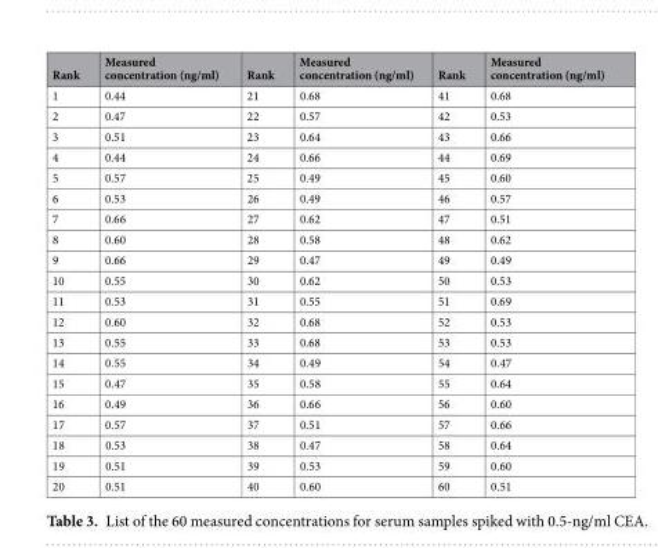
<table><thead><tr><td>Rank</td><td>Measured concentration (ng/ml)</td><td>Rank</td><td>Measured concentration (ng/ml)</td><td>Rank</td><td>Measured concentration (ng/ml)</td></tr></thead><tbody><tr><td>1</td><td>0.44</td><td>21</td><td>0.68</td><td>41</td><td>0.68</td></tr><tr><td>2</td><td>0.47</td><td>22</td><td>0.57</td><td>42</td><td>0.53</td></tr><tr><td>3</td><td>0.51</td><td>23</td><td>0.64</td><td>43</td><td>0.66</td></tr><tr><td>4</td><td>0.44</td><td>24</td><td>0.66</td><td>44</td><td>0.69</td></tr><tr><td>5</td><td>0.57</td><td>25</td><td>0.49</td><td>45</td><td>0.60</td></tr><tr><td>6</td><td>0.53</td><td>26</td><td>0.49</td><td>46</td><td>0.57</td></tr><tr><td>7</td><td>0.66</td><td>27</td><td>0.62</td><td>47</td><td>0.51</td></tr><tr><td>8</td><td>0.60</td><td>28</td><td>0.58</td><td>48</td><td>0.62</td></tr><tr><td>9</td><td>0.66</td><td>29</td><td>0.47</td><td>49</td><td>0.49</td></tr><tr><td>10</td><td>0.55</td><td>30</td><td>0.62</td><td>50</td><td>0.53</td></tr><tr><td>11</td><td>0.53</td><td>31</td><td>0.55</td><td>51</td><td>0.69</td></tr><tr><td>12</td><td>0.60</td><td>32</td><td>0.68</td><td>52</td><td>0.53</td></tr><tr><td>13</td><td>0.55</td><td>33</td><td>0.68</td><td>53</td><td>0.53</td></tr><tr><td>14</td><td>0.55</td><td>34</td><td>0.49</td><td>54</td><td>0.47</td></tr><tr><td>15</td><td>0.47</td><td>35</td><td>0.58</td><td>55</td><td>0.64</td></tr><tr><td>16</td><td>0.49</td><td>36</td><td>0.66</td><td>56</td><td>0.60</td></tr><tr><td>17</td><td>0.57</td><td>37</td><td>0.51</td><td>57</td><td>0.66</td></tr><tr><td>18</td><td>0.53</td><td>38</td><td>0.47</td><td>58</td><td>0.64</td></tr><tr><td>19</td><td>0.51</td><td>39</td><td>0.53</td><td>59</td><td>0.60</td></tr><tr><td>20</td><td>0.51</td><td>40</td><td>0.60</td><td>60</td><td>0.51</td></tr></tbody></table>